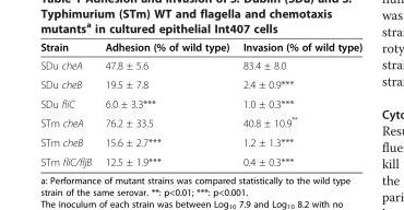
<table><thead><tr><td>Strain</td><td>Adhesion (% of wild type)</td><td>Invasion (% of wild type)</td></tr></thead><tbody><tr><td>SDu cheA</td><td>47.8 ± 5.6</td><td>83.4 ± 8.0</td></tr><tr><td>SDu cheB</td><td>19.5 ± 7.8</td><td>2.4 ± 0.9***</td></tr><tr><td>SDu fliC</td><td>6.0 ± 3.3***</td><td>1.0 ± 0.3***</td></tr><tr><td>STm cheA</td><td>76.2 ± 33.5</td><td>40.8 ± 10.9**</td></tr><tr><td>STm cheB</td><td>15.6 ± 2.7***</td><td>1.2 ± 1.3***</td></tr><tr><td>STm fliC/fljB</td><td>12.5 ± 1.9***</td><td>0.4 ± 0.3***</td></tr></tbody></table>